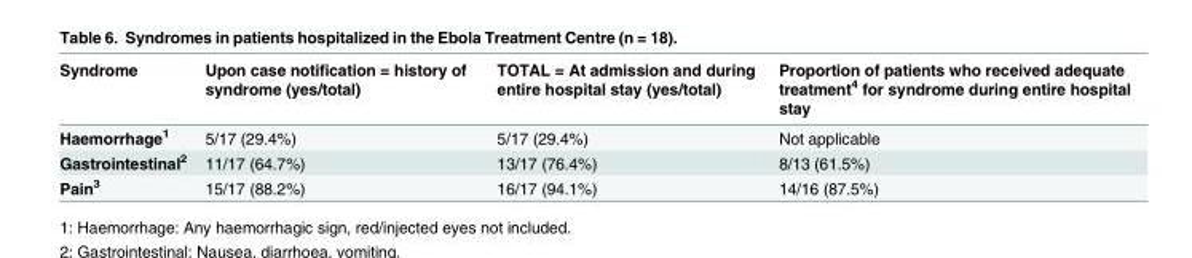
<table><thead><tr><td>Syndrome</td><td>Upon case notification = history of syndrome (yes/total)</td><td>TOTAL = At admission and during entire hospital stay (yes/total)</td><td>Proportion of patients who received adequate treatment<sup>4</sup> for syndrome during entire hospital stay</td></tr></thead><tbody><tr><td>Haemorrhage<sup>1</sup></td><td>5/17 (29.4%)</td><td>5/17 (29.4%)</td><td>Not applicable</td></tr><tr><td>Gastrointestinal<sup>2</sup></td><td>11/17 (64.7%)</td><td>13/17 (76.4%)</td><td>8/13 (61.5%)</td></tr><tr><td>Pain<sup>3</sup></td><td>15/17 (88.2%)</td><td>16/17 (94.1%)</td><td>14/16 (87.5%)</td></tr></tbody></table>